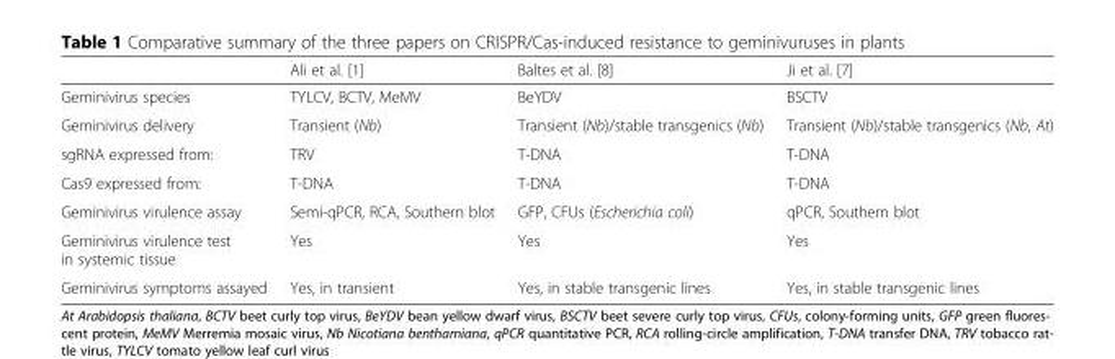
<table><thead><tr><td></td><td>Ali et al. [1]</td><td>Baltes et al. [8]</td><td>Ji et al. [7]</td></tr></thead><tbody><tr><td>Geminivirus species</td><td>TYLCV, BCTV, MeMV</td><td>BeYDV</td><td>BSCTV</td></tr><tr><td>Geminivirus delivery</td><td>Transient (Nb)</td><td>Transient (Nb)/stable transgenics (Nb)</td><td>Transient (Nb)/stable transgenics (Nb, At)</td></tr><tr><td>sgRNA expressed from:</td><td>TRV</td><td>T-DNA</td><td>T-DNA</td></tr><tr><td>Cas9 expressed from:</td><td>T-DNA</td><td>T-DNA</td><td>T-DNA</td></tr><tr><td>Geminivirus virulence assay</td><td>Semi-qPCR, RCA, Southern blot</td><td>GFP, CFUs (Escherichia coli)</td><td>qPCR, Southern blot</td></tr><tr><td>Geminivirus virulence test in systemic tissue</td><td>Yes</td><td>Yes</td><td>Yes</td></tr><tr><td>Geminivirus symptoms assayed</td><td>Yes, in transient</td><td>Yes, in stable transgenic lines</td><td>Yes, in stable transgenic lines</td></tr></tbody></table>